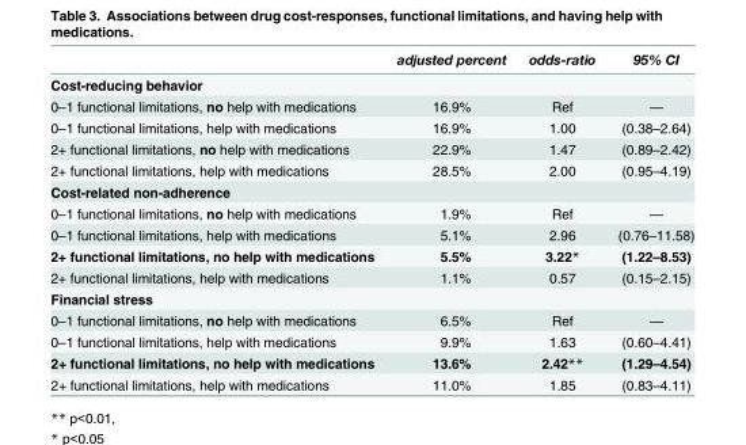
<table><thead><tr><td></td><td>adjusted percent</td><td>odds-ratio</td><td>95% CI</td></tr></thead><tbody><tr><td colspan="4">Cost-reducing behavior</td></tr><tr><td>0–1 functional limitations, no help with medications</td><td>16.9%</td><td>Ref</td><td>—</td></tr><tr><td>0–1 functional limitations, help with medications</td><td>16.9%</td><td>1.00</td><td>(0.38–2.64)</td></tr><tr><td>2+ functional limitations, no help with medications</td><td>22.9%</td><td>1.47</td><td>(0.89–2.42)</td></tr><tr><td>2+ functional limitations, help with medications</td><td>28.5%</td><td>2.00</td><td>(0.95–4.19)</td></tr><tr><td colspan="4">Cost-related non-adherence</td></tr><tr><td>0–1 functional limitations, no help with medications</td><td>1.9%</td><td>Ref</td><td>—</td></tr><tr><td>0–1 functional limitations, help with medications</td><td>5.1%</td><td>2.96</td><td>(0.76–11.58)</td></tr><tr><td>2+ functional limitations, no help with medications</td><td>5.5%</td><td>3.22*</td><td>(1.22–8.53)</td></tr><tr><td>2+ functional limitations, help with medications</td><td>1.1%</td><td>0.57</td><td>(0.15–2.15)</td></tr><tr><td colspan="4">Financial stress</td></tr><tr><td>0–1 functional limitations, no help with medications</td><td>6.5%</td><td>Ref</td><td>—</td></tr><tr><td>0–1 functional limitations, help with medications</td><td>9.9%</td><td>1.63</td><td>(0.60–4.41)</td></tr><tr><td>2+ functional limitations, no help with medications</td><td>13.6%</td><td>2.42**</td><td>(1.29–4.54)</td></tr><tr><td>2+ functional limitations, help with medications</td><td>11.0%</td><td>1.85</td><td>(0.83–4.11)</td></tr></tbody></table>